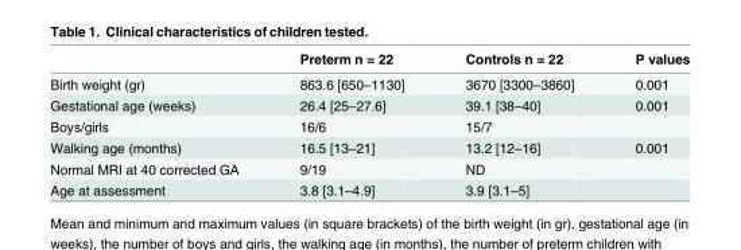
<table><thead><tr><td></td><td>Preterm n = 22</td><td>Controls n = 22</td><td>P values</td></tr></thead><tbody><tr><td>Birth weight (gr)</td><td>863.6 [650–1130]</td><td>3670 [3300–3860]</td><td>0.001</td></tr><tr><td>Gestational age (weeks)</td><td>26.4 [25–27.6]</td><td>39.1 [38–40]</td><td>0.001</td></tr><tr><td>Boys/girls</td><td>16/6</td><td>15/7</td><td></td></tr><tr><td>Walking age (months)</td><td>16.5 [13–21]</td><td>13.2 [12–16]</td><td>0.001</td></tr><tr><td>Normal MRI at 40 corrected GA</td><td>9/19</td><td>ND</td><td></td></tr><tr><td>Age at assessment</td><td>3.8 [3.1–4.9]</td><td>3.9 [3.1–5]</td><td></td></tr></tbody></table>